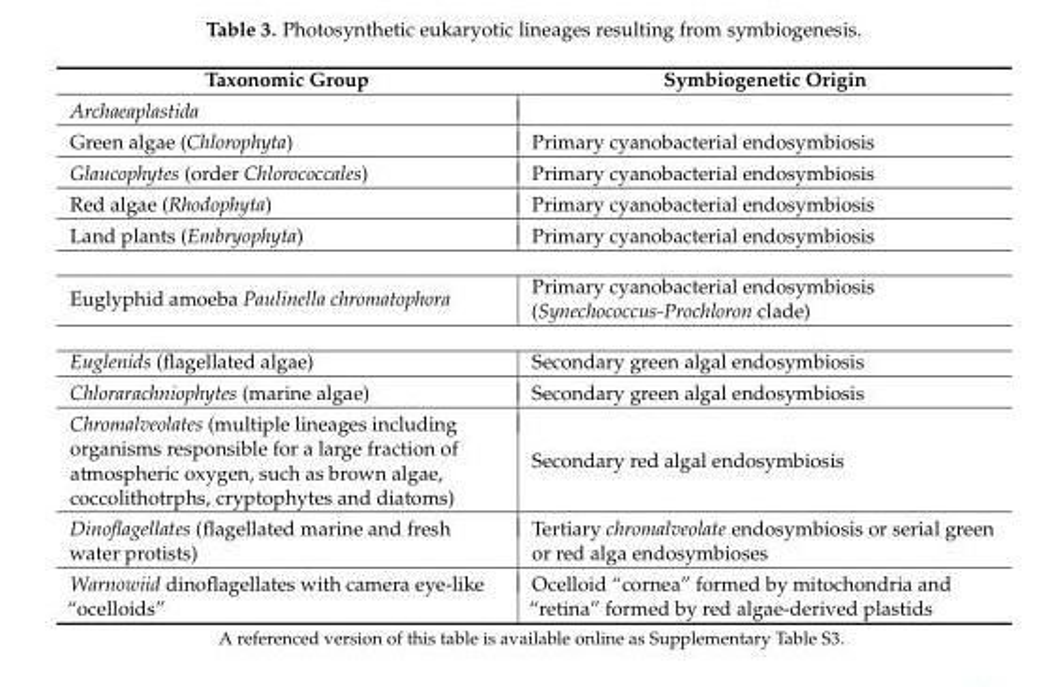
<table><thead><tr><td>Taxonomic Group</td><td>Symbiogenetic Origin</td></tr></thead><tbody><tr><td colspan="2">Archaeaplastida</td></tr><tr><td>Green algae (Chlorophyta)</td><td>Primary cyanobacterial endosymbiosis</td></tr><tr><td>Glaucophytes (order Chlorococcales)</td><td>Primary cyanobacterial endosymbiosis</td></tr><tr><td>Red algae (Rhodophyta)</td><td>Primary cyanobacterial endosymbiosis</td></tr><tr><td>Land plants (Embryophyta)</td><td>Primary cyanobacterial endosymbiosis</td></tr><tr><td>Euglyphid amoeba Paulinella chromatophora</td><td>Primary cyanobacterial endosymbiosis (Synechococcus-Prochloron clade)</td></tr><tr><td>Euglenids (flagellated algae)</td><td>Secondary green algal endosymbiosis</td></tr><tr><td>Chlorarachniophytes (marine algae)</td><td>Secondary green algal endosymbiosis</td></tr><tr><td>Chromalveolates (multiple lineages including organisms responsible for a large fraction of atmospheric oxygen, such as brown algae, coccolithotrphs, cryptophytes and diatoms)</td><td>Secondary red algal endosymbiosis</td></tr><tr><td>Dinoflagellates (flagellated marine and fresh water protists)</td><td>Tertiary chromalveolate endosymbiosis or serial green or red alga endosymbioses</td></tr><tr><td>Warnowiid dinoflagellates with camera eye-like “ocelloids”</td><td>Ocelloid “cornea” formed by mitochondria and “retina” formed by red algae-derived plastids</td></tr></tbody></table>